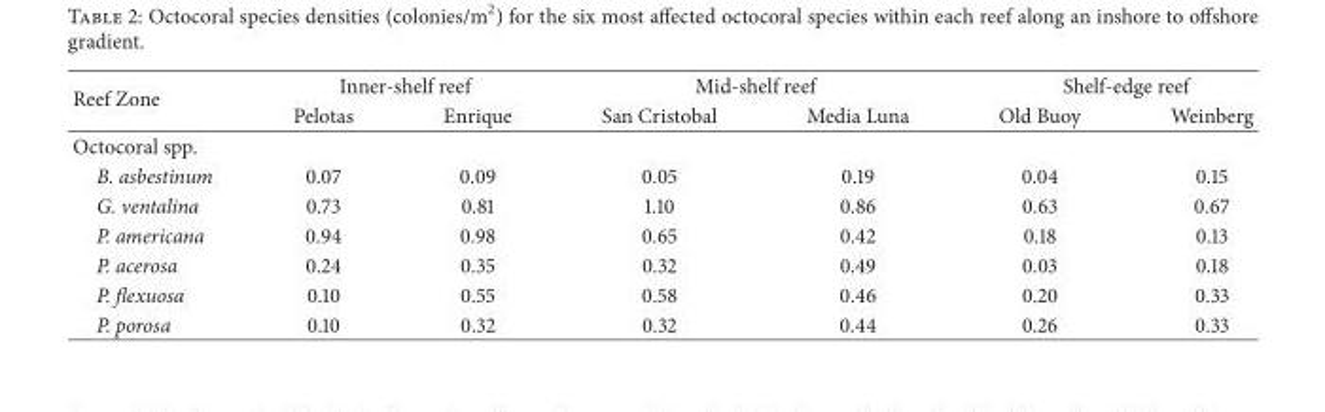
<table><thead><tr><td rowspan="2">Reef Zone</td><td colspan="2">Inner-shelf reef</td><td colspan="2">Mid-shelf reef</td><td colspan="2">Shelf-edge reef</td></tr><tr><td>Pelotas</td><td>Enrique</td><td>San Cristobal</td><td>Media Luna</td><td>Old Buoy</td><td>Weinberg</td></tr></thead><tbody><tr><td colspan="7">Octocoral spp.</td></tr><tr><td>B. asbestinum</td><td>0.07</td><td>0.09</td><td>0.05</td><td>0.19</td><td>0.04</td><td>0.15</td></tr><tr><td>G. ventalina</td><td>0.73</td><td>0.81</td><td>1.10</td><td>0.86</td><td>0.63</td><td>0.67</td></tr><tr><td>P. americana</td><td>0.94</td><td>0.98</td><td>0.65</td><td>0.42</td><td>0.18</td><td>0.13</td></tr><tr><td>P. acerosa</td><td>0.24</td><td>0.35</td><td>0.32</td><td>0.49</td><td>0.03</td><td>0.18</td></tr><tr><td>P. flexuosa</td><td>0.10</td><td>0.55</td><td>0.58</td><td>0.46</td><td>0.20</td><td>0.33</td></tr><tr><td>P. porosa</td><td>0.10</td><td>0.32</td><td>0.32</td><td>0.44</td><td>0.26</td><td>0.33</td></tr></tbody></table>